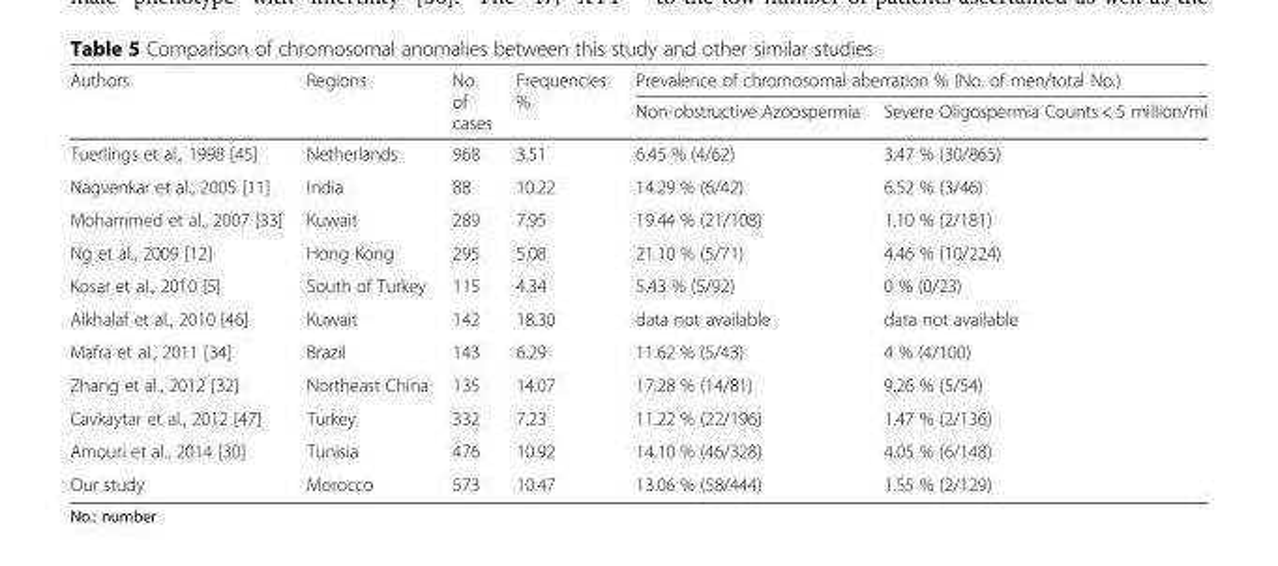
<table><thead><tr><td rowspan="2">Authors</td><td rowspan="2">Regions</td><td rowspan="2">No. of cases</td><td rowspan="2">Frequencies %</td><td colspan="2">Prevalence of chromosomal aberration % (No. of men/total No.)</td></tr><tr><td>Non-obstructive Azoospermia</td><td>Severe Oligospermia Counts &lt; 5 million/ml</td></tr></thead><tbody><tr><td>Tuerlings et al., 1998 [45]</td><td>Netherlands</td><td>968</td><td>3.51</td><td>6.45 % (4/62)</td><td>3.47 % (30/865)</td></tr><tr><td>Nagvenkar et al., 2005 [11]</td><td>India</td><td>88</td><td>10.22</td><td>14.29 % (6/42)</td><td>6.52 % (3/46)</td></tr><tr><td>Mohammed et al., 2007 [33]</td><td>Kuwait</td><td>289</td><td>7.95</td><td>19.44 % (21/108)</td><td>1.10 % (2/181)</td></tr><tr><td>Ng et al., 2009 [12]</td><td>Hong Kong</td><td>295</td><td>5.08</td><td>21.10 % (5/71)</td><td>4.46 % (10/224)</td></tr><tr><td>Kosar et al., 2010 [5]</td><td>South of Turkey</td><td>115</td><td>4.34</td><td>5.43 % (5/92)</td><td>0 % (0/23)</td></tr><tr><td>Alkhalaf et al., 2010 [46]</td><td>Kuwait</td><td>142</td><td>18.30</td><td>data not available</td><td>data not available</td></tr><tr><td>Mafra et al., 2011 [34]</td><td>Brazil</td><td>143</td><td>6.29</td><td>11.62 % (5/43)</td><td>4 % (4/100)</td></tr><tr><td>Zhang et al., 2012 [32]</td><td>Northeast China</td><td>135</td><td>14.07</td><td>17.28 % (14/81)</td><td>9.26 % (5/54)</td></tr><tr><td>Cavkaytar et al., 2012 [47]</td><td>Turkey</td><td>332</td><td>7.23</td><td>11.22 % (22/196)</td><td>1.47 % (2/136)</td></tr><tr><td>Amouri et al., 2014 [30]</td><td>Tunisia</td><td>476</td><td>10.92</td><td>14.10 % (46/328)</td><td>4.05 % (6/148)</td></tr><tr><td>Our study</td><td>Morocco</td><td>573</td><td>10.47</td><td>13.06 % (58/444)</td><td>1.55 % (2/129)</td></tr></tbody></table>